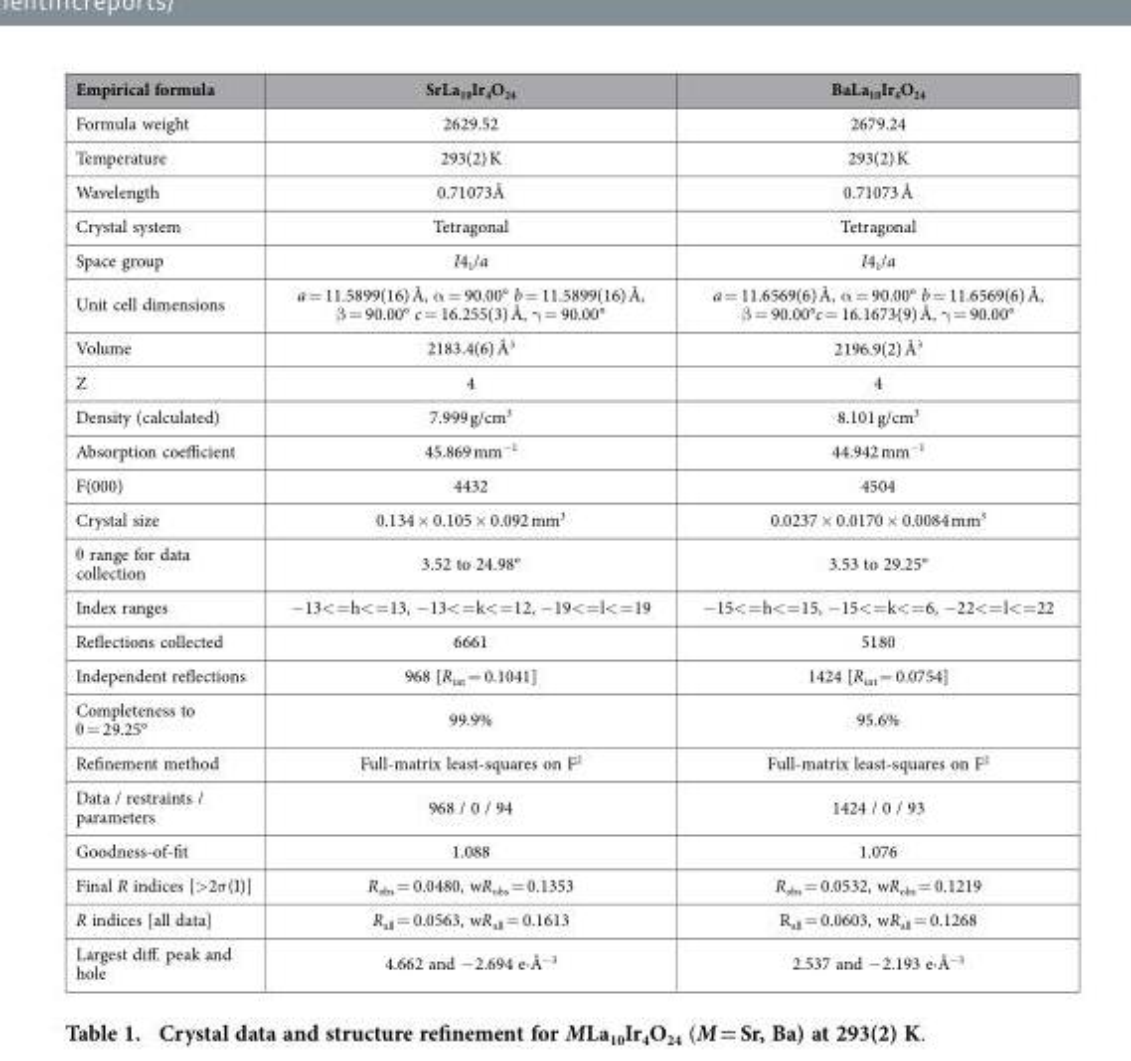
<table><thead><tr><td>Empirical formula</td><td>SrLa<sub>10</sub>Ir<sub>4</sub>O<sub>24</sub></td><td>BaLa<sub>10</sub>Ir<sub>4</sub>O<sub>24</sub></td></tr></thead><tbody><tr><td>Formula weight</td><td>2629.52</td><td>2679.24</td></tr><tr><td>Temperature</td><td>293(2) K</td><td>293(2) K</td></tr><tr><td>Wavelength</td><td>0.71073Å</td><td>0.71073 Å</td></tr><tr><td>Crystal system</td><td>Tetragonal</td><td>Tetragonal</td></tr><tr><td>Space group</td><td>I4<sub>1</sub>/a</td><td>I4<sub>1</sub>/a</td></tr><tr><td>Unit cell dimensions</td><td>a = 11.5899(16) Å, α = 90.00° b = 11.5899(16) Å, β = 90.00° c = 16.255(3) Å, γ = 90.00°</td><td>a = 11.6569(6) Å, α = 90.00° b = 11.6569(6) Å, β = 90.00°c = 16.1673(9) Å, γ = 90.00°</td></tr><tr><td>Volume</td><td>2183.4(6) Å<sup>3</sup></td><td>2196.9(2) Å<sup>3</sup></td></tr><tr><td>Z</td><td>4</td><td>4</td></tr><tr><td>Density (calculated)</td><td>7.999 g/cm<sup>3</sup></td><td>8.101 g/cm<sup>3</sup></td></tr><tr><td>Absorption coefficient</td><td>45.869 mm<sup>−1</sup></td><td>44.942 mm<sup>−1</sup></td></tr><tr><td>F(000)</td><td>4432</td><td>4504</td></tr><tr><td>Crystal size</td><td>0.134 × 0.105 × 0.092 mm<sup>3</sup></td><td>0.0237 × 0.0170 × 0.0084 mm<sup>3</sup></td></tr><tr><td>θ range for data collection</td><td>3.52 to 24.98°</td><td>3.53 to 29.25°</td></tr><tr><td>Index ranges</td><td>−13&lt; = h&lt; = 13, −13&lt; = k&lt; = 12, −19&lt; = l&lt; = 19</td><td>−15&lt; = h&lt; = 15, −15&lt; = k&lt; = 6, −22&lt; = l&lt; = 22</td></tr><tr><td>Reflections collected</td><td>6661</td><td>5180</td></tr><tr><td>Independent reflections</td><td>968 [R<sub>int</sub> = 0.1041]</td><td>1424 [R<sub>int</sub> = 0.0754]</td></tr><tr><td>Completeness to θ = 29.25°</td><td>99.9%</td><td>95.6%</td></tr><tr><td>Refinement method</td><td>Full-matrix least-squares on F<sup>2</sup></td><td>Full-matrix least-squares on F<sup>2</sup></td></tr><tr><td>Data / restraints / parameters</td><td>968 / 0 / 94</td><td>1424 / 0 / 93</td></tr><tr><td>Goodness-of-fit</td><td>1.088</td><td>1.076</td></tr><tr><td>Final R indices [&gt;2σ (I)]</td><td>R<sub>obs</sub> = 0.0480, wR<sub>obs</sub> = 0.1353</td><td>R<sub>obs</sub> = 0.0532, wR<sub>obs</sub> = 0.1219</td></tr><tr><td>R indices [all data]</td><td>R<sub>all</sub> = 0.0563, wR<sub>all</sub> = 0.1613</td><td>R<sub>all</sub> = 0.0603, wR<sub>all</sub> = 0.1268</td></tr><tr><td>Largest diff. peak and hole</td><td>4.662 and − 2.694 e·Å<sup>−3</sup></td><td>2.537 and − 2.193 e·Å<sup>−3</sup></td></tr></tbody></table>